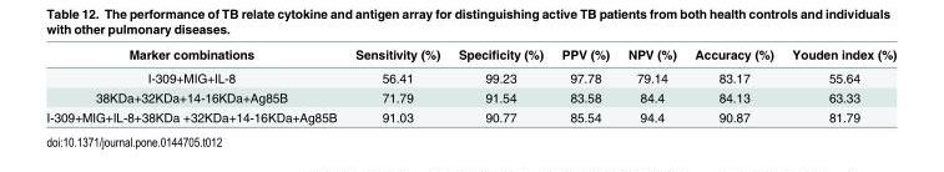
<table><thead><tr><td>Marker combinations</td><td>Sensitivity (%)</td><td>Specificity (%)</td><td>PPV (%)</td><td>NPV (%)</td><td>Accuracy (%)</td><td>Youden index (%)</td></tr></thead><tbody><tr><td>I-309+MIG+IL-8</td><td>56.41</td><td>99.23</td><td>97.78</td><td>79.14</td><td>83.17</td><td>55.64</td></tr><tr><td>38KDa+32KDa+14-16KDa+Ag85B</td><td>71.79</td><td>91.54</td><td>83.58</td><td>84.4</td><td>84.13</td><td>63.33</td></tr><tr><td>I-309+MIG+IL-8+38KDa +32KDa+14-16KDa+Ag85B</td><td>91.03</td><td>90.77</td><td>85.54</td><td>94.4</td><td>90.87</td><td>81.79</td></tr></tbody></table>